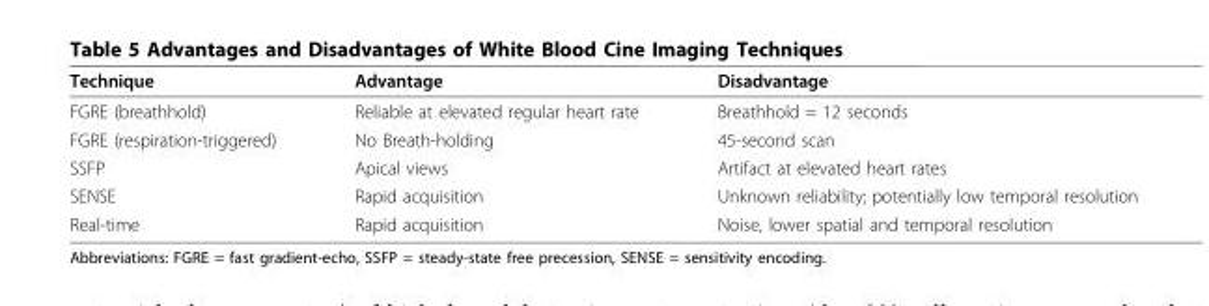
<table><thead><tr><td>Technique</td><td>Advantage</td><td>Disadvantage</td></tr></thead><tbody><tr><td>FGRE (breathhold)</td><td>Reliable at elevated regular heart rate</td><td>Breathhold = 12 seconds</td></tr><tr><td>FGRE (respiration-triggered)</td><td>No Breath-holding</td><td>45-second scan</td></tr><tr><td>SSFP</td><td>Apical views</td><td>Artifact at elevated heart rates</td></tr><tr><td>SENSE</td><td>Rapid acquisition</td><td>Unknown reliability; potentially low temporal resolution</td></tr><tr><td>Real-time</td><td>Rapid acquisition</td><td>Noise, lower spatial and temporal resolution</td></tr></tbody></table>